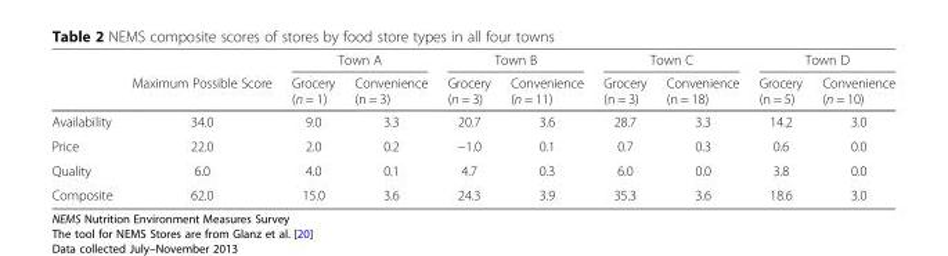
<table><thead><tr><td rowspan="2"></td><td rowspan="2">Maximum Possible Score</td><td colspan="2">Town A</td><td colspan="2">Town B</td><td colspan="2">Town C</td><td colspan="2">Town D</td></tr><tr><td>Grocery (n = 1)</td><td>Convenience (n = 3)</td><td>Grocery (n = 3)</td><td>Convenience (n = 11)</td><td>Grocery (n = 3)</td><td>Convenience (n = 18)</td><td>Grocery (n = 5)</td><td>Convenience (n = 10)</td></tr></thead><tbody><tr><td>Availability</td><td>34.0</td><td>9.0</td><td>3.3</td><td>20.7</td><td>3.6</td><td>28.7</td><td>3.3</td><td>14.2</td><td>3.0</td></tr><tr><td>Price</td><td>22.0</td><td>2.0</td><td>0.2</td><td>−1.0</td><td>0.1</td><td>0.7</td><td>0.3</td><td>0.6</td><td>0.0</td></tr><tr><td>Quality</td><td>6.0</td><td>4.0</td><td>0.1</td><td>4.7</td><td>0.3</td><td>6.0</td><td>0.0</td><td>3.8</td><td>0.0</td></tr><tr><td>Composite</td><td>62.0</td><td>15.0</td><td>3.6</td><td>24.3</td><td>3.9</td><td>35.3</td><td>3.6</td><td>18.6</td><td>3.0</td></tr></tbody></table>